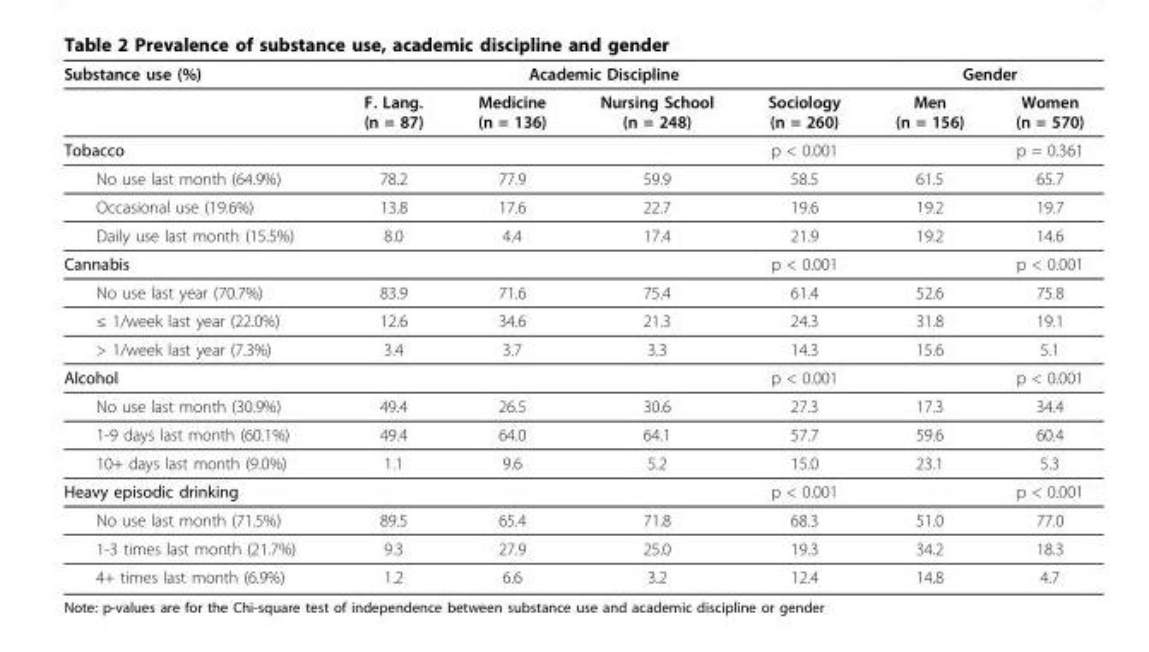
<table><thead><tr><td rowspan="2">Substance use (%)</td><td colspan="4">Academic Discipline</td><td colspan="2">Gender</td></tr><tr><td>F. Lang. (n = 87)</td><td>Medicine (n = 136)</td><td>Nursing School (n = 248)</td><td>Sociology (n = 260)</td><td>Men (n = 156)</td><td>Women (n = 570)</td></tr></thead><tbody><tr><td>Tobacco</td><td></td><td></td><td></td><td>p &lt; 0.001</td><td></td><td>p = 0.361</td></tr><tr><td>No use last month (64.9%)</td><td>78.2</td><td>77.9</td><td>59.9</td><td>58.5</td><td>61.5</td><td>65.7</td></tr><tr><td>Occasional use (19.6%)</td><td>13.8</td><td>17.6</td><td>22.7</td><td>19.6</td><td>19.2</td><td>19.7</td></tr><tr><td>Daily use last month (15.5%)</td><td>8.0</td><td>4.4</td><td>17.4</td><td>21.9</td><td>19.2</td><td>14.6</td></tr><tr><td>Cannabis</td><td></td><td></td><td></td><td>p &lt; 0.001</td><td></td><td>p &lt; 0.001</td></tr><tr><td>No use last year (70.7%)</td><td>83.9</td><td>71.6</td><td>75.4</td><td>61.4</td><td>52.6</td><td>75.8</td></tr><tr><td>≤ 1/week last year (22.0%)</td><td>12.6</td><td>34.6</td><td>21.3</td><td>24.3</td><td>31.8</td><td>19.1</td></tr><tr><td>&gt; 1/week last year (7.3%)</td><td>3.4</td><td>3.7</td><td>3.3</td><td>14.3</td><td>15.6</td><td>5.1</td></tr><tr><td>Alcohol</td><td></td><td></td><td></td><td>p &lt; 0.001</td><td></td><td>p &lt; 0.001</td></tr><tr><td>No use last month (30.9%)</td><td>49.4</td><td>26.5</td><td>30.6</td><td>27.3</td><td>17.3</td><td>34.4</td></tr><tr><td>1-9 days last month (60.1%)</td><td>49.4</td><td>64.0</td><td>64.1</td><td>57.7</td><td>59.6</td><td>60.4</td></tr><tr><td>10+ days last month (9.0%)</td><td>1.1</td><td>9.6</td><td>5.2</td><td>15.0</td><td>23.1</td><td>5.3</td></tr><tr><td>Heavy episodic drinking</td><td></td><td></td><td></td><td>p &lt; 0.001</td><td></td><td>p &lt; 0.001</td></tr><tr><td>No use last month (71.5%)</td><td>89.5</td><td>65.4</td><td>71.8</td><td>68.3</td><td>51.0</td><td>77.0</td></tr><tr><td>1-3 times last month (21.7%)</td><td>9.3</td><td>27.9</td><td>25.0</td><td>19.3</td><td>34.2</td><td>18.3</td></tr><tr><td>4+ times last month (6.9%)</td><td>1.2</td><td>6.6</td><td>3.2</td><td>12.4</td><td>14.8</td><td>4.7</td></tr></tbody></table>